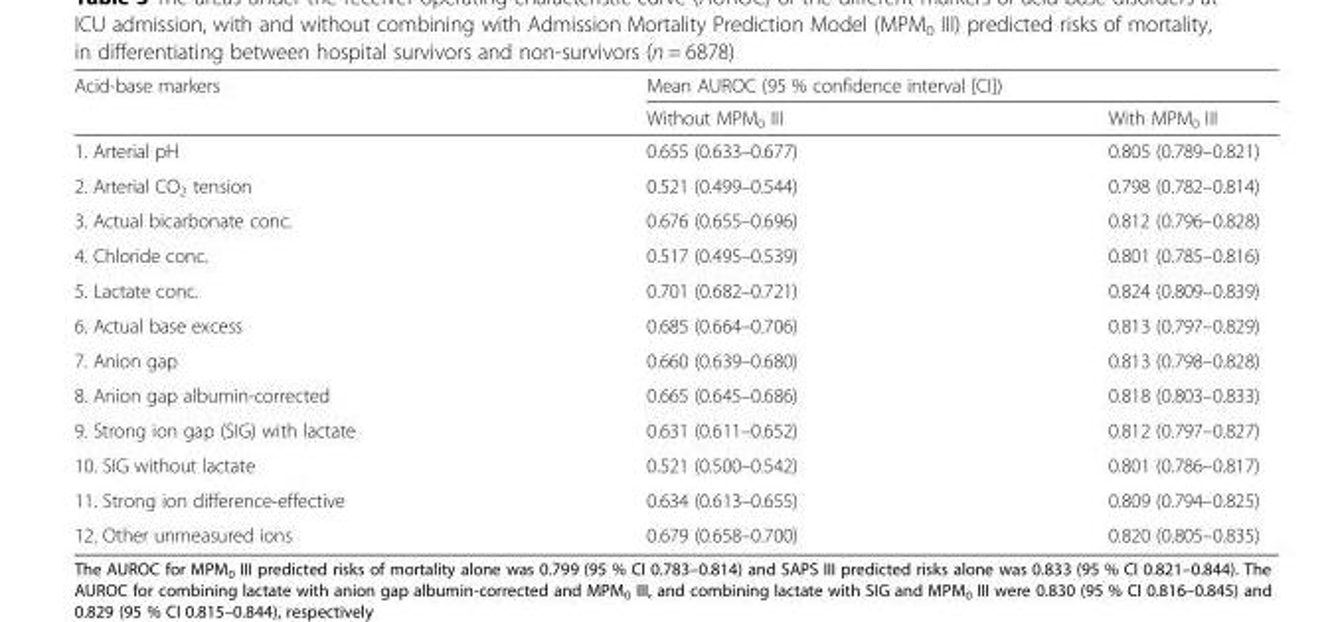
<table><thead><tr><td rowspan="2">Acid-base markers</td><td colspan="2">Mean AUROC (95 % confidence interval [CI])</td></tr><tr><td>Without MPM<sub>0</sub> III</td><td>With MPM<sub>0</sub> III</td></tr></thead><tbody><tr><td>1. Arterial pH</td><td>0.655 (0.633–0.677)</td><td>0.805 (0.789–0.821)</td></tr><tr><td>2. Arterial CO<sub>2</sub> tension</td><td>0.521 (0.499–0.544)</td><td>0.798 (0.782–0.814)</td></tr><tr><td>3. Actual bicarbonate conc.</td><td>0.676 (0.655–0.696)</td><td>0.812 (0.796–0.828)</td></tr><tr><td>4. Chloride conc.</td><td>0.517 (0.495–0.539)</td><td>0.801 (0.785–0.816)</td></tr><tr><td>5. Lactate conc.</td><td>0.701 (0.682–0.721)</td><td>0.824 (0.809–0.839)</td></tr><tr><td>6. Actual base excess</td><td>0.685 (0.664–0.706)</td><td>0.813 (0.797–0.829)</td></tr><tr><td>7. Anion gap</td><td>0.660 (0.639–0.680)</td><td>0.813 (0.798–0.828)</td></tr><tr><td>8. Anion gap albumin-corrected</td><td>0.665 (0.645–0.686)</td><td>0.818 (0.803–0.833)</td></tr><tr><td>9. Strong ion gap (SIG) with lactate</td><td>0.631 (0.611–0.652)</td><td>0.812 (0.797–0.827)</td></tr><tr><td>10. SIG without lactate</td><td>0.521 (0.500–0.542)</td><td>0.801 (0.786–0.817)</td></tr><tr><td>11. Strong ion difference-effective</td><td>0.634 (0.613–0.655)</td><td>0.809 (0.794–0.825)</td></tr><tr><td>12. Other unmeasured ions</td><td>0.679 (0.658–0.700)</td><td>0.820 (0.805–0.835)</td></tr></tbody></table>